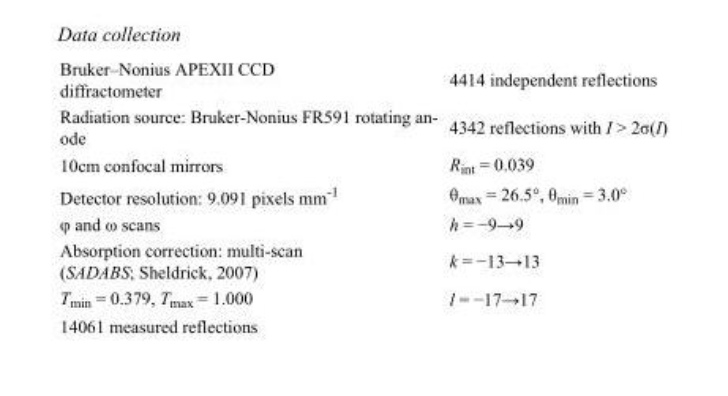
<table><tbody><tr><td>Bruker–Nonius APEXII CCD diffractometer</td><td>4414 independent reflections</td></tr><tr><td>Radiation source: Bruker-Nonius FR591 rotating an- ode</td><td>4342 reflections with I &gt; 2σ(I)</td></tr><tr><td>10cm confocal mirrors</td><td>R<sub>int</sub> = 0.039</td></tr><tr><td>Detector resolution: 9.091 pixels mm<sup>-1</sup></td><td>θ<sub>max</sub> = 26.5°, θ<sub>min</sub> = 3.0°</td></tr><tr><td>φ and ω scans</td><td>h = −9→9</td></tr><tr><td>Absorption correction: multi-scan (SADABS; Sheldrick, 2007)</td><td>k = −13→13</td></tr><tr><td>T<sub>min</sub> = 0.379, T<sub>max</sub> = 1.000</td><td>l = −17→17</td></tr><tr><td>14061 measured reflections</td><td></td></tr></tbody></table>